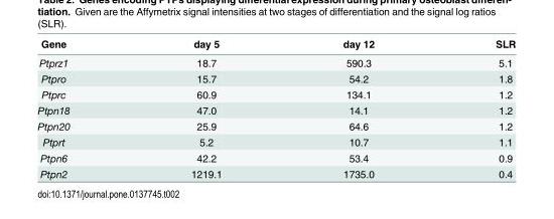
<table><thead><tr><td>Gene</td><td>day 5</td><td>day 12</td><td>SLR</td></tr></thead><tbody><tr><td>Ptprz1</td><td>18.7</td><td>590.3</td><td>5.1</td></tr><tr><td>Ptpro</td><td>15.7</td><td>54.2</td><td>1.8</td></tr><tr><td>Ptprc</td><td>60.9</td><td>134.1</td><td>1.2</td></tr><tr><td>Ptpn18</td><td>47.0</td><td>14.1</td><td>1.2</td></tr><tr><td>Ptpn20</td><td>25.9</td><td>64.6</td><td>1.2</td></tr><tr><td>Ptprt</td><td>5.2</td><td>10.7</td><td>1.1</td></tr><tr><td>Ptpn6</td><td>42.2</td><td>53.4</td><td>0.9</td></tr><tr><td>Ptpn2</td><td>1219.1</td><td>1735.0</td><td>0.4</td></tr></tbody></table>